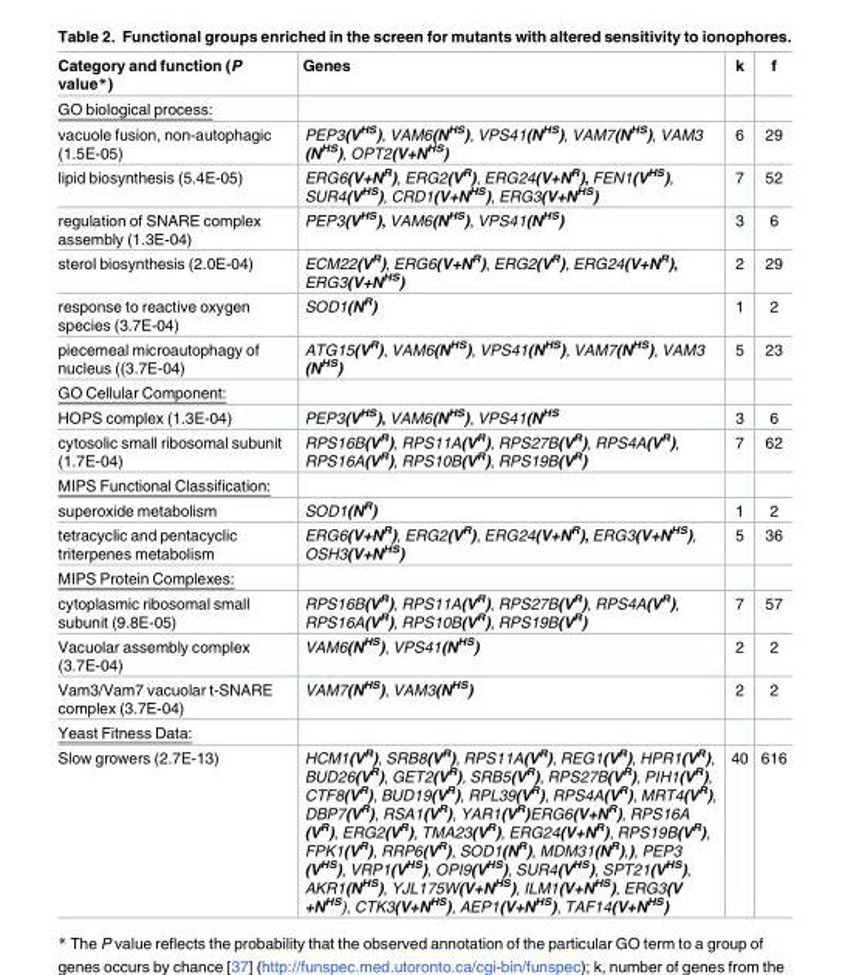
<table><thead><tr><td>Category and function (P value*)</td><td>Genes</td><td>k</td><td>f</td></tr></thead><tbody><tr><td colspan="4">GO biological process:</td></tr><tr><td>vacuole fusion, non-autophagic (1.5E-05)</td><td>PEP3(VHS), VAM6(NHS), VPS41(NHS), VAM7(NHS), VAM3 (NHS), OPT2(V+NHS)</td><td>6</td><td>29</td></tr><tr><td>lipid biosynthesis (5.4E-05)</td><td>ERG6(V+NR), ERG2(VR), ERG24(V+NR), FEN1(VHS), SUR4(VHS), CRD1(V+NHS), ERG3(V+NHS)</td><td>7</td><td>52</td></tr><tr><td>regulation of SNARE complex assembly (1.3E-04)</td><td>PEP3(VHS), VAM6(NHS), VPS41(NHS)</td><td>3</td><td>6</td></tr><tr><td>sterol biosynthesis (2.0E-04)</td><td>ECM22(VR), ERG6(V+NR), ERG2(VR), ERG24(V+NR), ERG3(V+NHS)</td><td>2</td><td>29</td></tr><tr><td>response to reactive oxygen species (3.7E-04)</td><td>SOD1(N<sup>R</sup>)</td><td>1</td><td>2</td></tr><tr><td>piecemeal microautophagy of nucleus ((3.7E-04)</td><td>ATG15(VR), VAM6(NHS), VPS41(NHS), VAM7(NHS), VAM3 (NHS)</td><td>5</td><td>23</td></tr><tr><td colspan="4">GO Cellular Component:</td></tr><tr><td>HOPS complex (1.3E-04)</td><td>PEP3(V<sup>HS</sup>), VAM6(N<sup>HS</sup>), VPS41(N<sup>HS</sup></td><td>3</td><td>6</td></tr><tr><td>cytosolic small ribosomal subunit (1.7E-04)</td><td>RPS16B(VR), RPS11A(VR), RPS27B(VR), RPS4A(VR), RPS16A(VR), RPS10B(VR), RPS19B(VR)</td><td>7</td><td>62</td></tr><tr><td colspan="4">MIPS Functional Classification:</td></tr><tr><td>superoxide metabolism</td><td>SOD1(N<sup>R</sup>)</td><td>1</td><td>2</td></tr><tr><td>tetracyclic and pentacyclic triterpenes metabolism</td><td>ERG6(V+NR), ERG2(VR), ERG24(V+NR), ERG3(V+NHS), OSH3(V+NHS)</td><td>5</td><td>36</td></tr><tr><td colspan="4">MIPS Protein Complexes:</td></tr><tr><td>cytoplasmic ribosomal small subunit (9.8E-05)</td><td>RPS16B(VR), RPS11A(VR), RPS27B(VR), RPS4A(VR), RPS16A(VR), RPS10B(VR), RPS19B(VR)</td><td>7</td><td>57</td></tr><tr><td>Vacuolar assembly complex (3.7E-04)</td><td>VAM6(N<sup>HS</sup>), VPS41(N<sup>HS</sup>)</td><td>2</td><td>2</td></tr><tr><td>Vam3/Vam7 vacuolar t-SNARE complex (3.7E-04)</td><td>VAM7(N<sup>HS</sup>), VAM3(N<sup>HS</sup>)</td><td>2</td><td>2</td></tr><tr><td colspan="4">Yeast Fitness Data:</td></tr><tr><td>Slow growers (2.7E-13)</td><td>HCM1(VR), SRB8(VR), RPS11A(VR), REG1(VR), HPR1(VR), BUD26(VR), GET2(VR), SRB5(VR), RPS27B(VR), PIH1(VR), CTF8(VR), BUD19(VR), RPL39(VR), RPS4A(VR), MRT4(VR), DBP7(VR), RSA1(VR), YAR1(VR)ERG6(V+NR), RPS16A (VR), ERG2(VR), TMA23(VR), ERG24(V+NR), RPS19B(VR), FPK1(VR), RRP6(VR), SOD1(NR), MDM31(NR),), PEP3 (VHS), VRP1(VHS), OPI9(VHS), SUR4(VHS), SPT21(VHS), AKR1(NHS), YJL175W(V+NHS), ILM1(V+NHS), ERG3(V +NHS), CTK3(V+NHS), AEP1(V+NHS), TAF14(V+NHS)</td><td>40</td><td>616</td></tr></tbody></table>